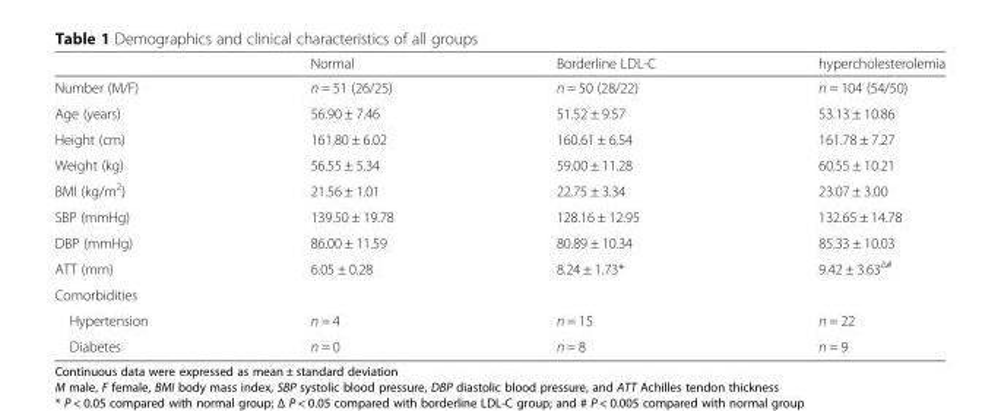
<table><thead><tr><td></td><td>Normal</td><td>Borderline LDL-C</td><td>hypercholesterolemia</td></tr></thead><tbody><tr><td>Number (M/F)</td><td>n = 51 (26/25)</td><td>n = 50 (28/22)</td><td>n = 104 (54/50)</td></tr><tr><td>Age (years)</td><td>56.90 ± 7.46</td><td>51.52 ± 9.57</td><td>53.13 ± 10.86</td></tr><tr><td>Height (cm)</td><td>161.80 ± 6.02</td><td>160.61 ± 6.54</td><td>161.78 ± 7.27</td></tr><tr><td>Weight (kg)</td><td>56.55 ± 5.34</td><td>59.00 ± 11.28</td><td>60.55 ± 10.21</td></tr><tr><td>BMI (kg/m<sup>2</sup>)</td><td>21.56 ± 1.01</td><td>22.75 ± 3.34</td><td>23.07 ± 3.00</td></tr><tr><td>SBP (mmHg)</td><td>139.50 ± 19.78</td><td>128.16 ± 12.95</td><td>132.65 ± 14.78</td></tr><tr><td>DBP (mmHg)</td><td>86.00 ± 11.59</td><td>80.89 ± 10.34</td><td>85.33 ± 10.03</td></tr><tr><td>ATT (mm)</td><td>6.05 ± 0.28</td><td>8.24 ± 1.73*</td><td>9.42 ± 3.63Δ#</td></tr><tr><td colspan="4">Comorbidities</td></tr><tr><td>Hypertension</td><td>n = 4</td><td>n = 15</td><td>n = 22</td></tr><tr><td>Diabetes</td><td>n = 0</td><td>n = 8</td><td>n = 9</td></tr></tbody></table>